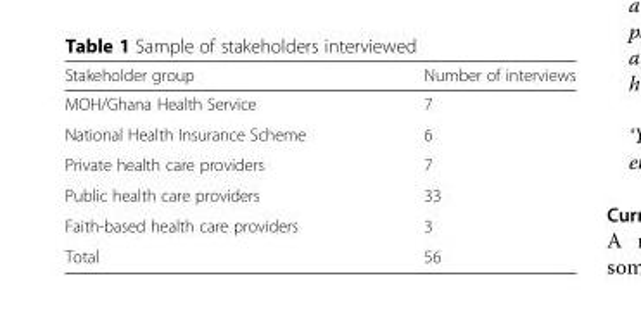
<table><thead><tr><td>Stakeholder group</td><td>Number of interviews</td></tr></thead><tbody><tr><td>MOH/Ghana Health Service</td><td>7</td></tr><tr><td>National Health Insurance Scheme</td><td>6</td></tr><tr><td>Private health care providers</td><td>7</td></tr><tr><td>Public health care providers</td><td>33</td></tr><tr><td>Faith-based health care providers</td><td>3</td></tr><tr><td>Total</td><td>56</td></tr></tbody></table>